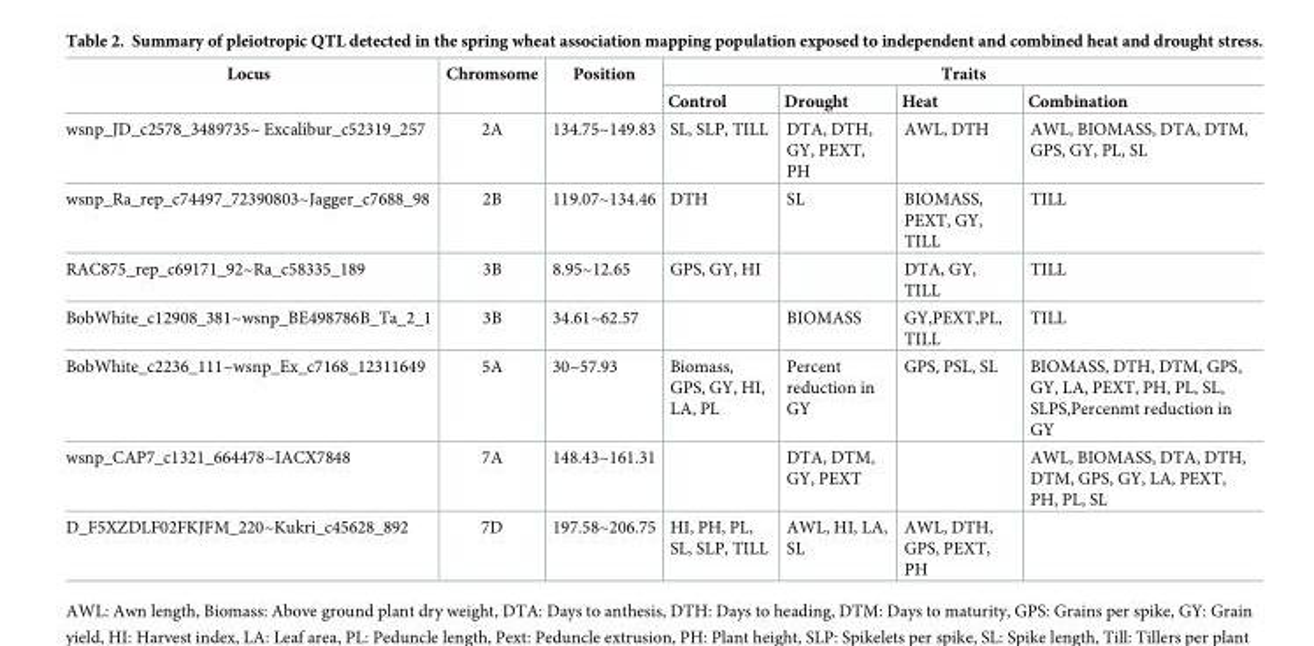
<table><thead><tr><td rowspan="2">Locus</td><td rowspan="2">Chromsome</td><td rowspan="2">Position</td><td colspan="4">Traits</td></tr><tr><td>Control</td><td>Drought</td><td>Heat</td><td>Combination</td></tr></thead><tbody><tr><td>wsnp_JD_c2578_3489735~ Excalibur_c52319_257</td><td>2A</td><td>134.75~149.83</td><td>SL, SLP, TILL</td><td>DTA, DTH, GY, PEXT, PH</td><td>AWL, DTH</td><td>AWL, BIOMASS, DTA, DTM, GPS, GY, PL, SL</td></tr><tr><td>wsnp_Ra_rep_c74497_72390803~Jagger_c7688_98</td><td>2B</td><td>119.07~134.46</td><td>DTH</td><td>SL</td><td>BIOMASS, PEXT, GY, TILL</td><td>TILL</td></tr><tr><td>RAC875_rep_c69171_92~Ra_c58335_189</td><td>3B</td><td>8.95~12.65</td><td>GPS, GY, HI</td><td></td><td>DTA, GY, TILL</td><td>TILL</td></tr><tr><td>BobWhite_c12908_381~wsnp_BE498786B_Ta_2_1</td><td>3B</td><td>34.61~62.57</td><td></td><td>BIOMASS</td><td>GY,PEXT,PL, TILL</td><td>TILL</td></tr><tr><td>BobWhite_c2236_111~wsnp_Ex_c7168_12311649</td><td>5A</td><td>30~57.93</td><td>Biomass, GPS, GY, HI, LA, PL</td><td>Percent reduction in GY</td><td>GPS, PSL, SL</td><td>BIOMASS, DTH, DTM, GPS, GY, LA, PEXT, PH, PL, SL, SLPS,Percenmt reduction in GY</td></tr><tr><td>wsnp_CAP7_c1321_664478~IACX7848</td><td>7A</td><td>148.43~161.31</td><td></td><td>DTA, DTM, GY, PEXT</td><td></td><td>AWL, BIOMASS, DTA, DTH, DTM, GPS, GY, LA, PEXT, PH, PL, SL</td></tr><tr><td>D_F5XZDLF02FKJFM_220~Kukri_c45628_892</td><td>7D</td><td>197.58~206.75</td><td>HI, PH, PL, SL, SLP, TILL</td><td>AWL, HI, LA, SL</td><td>AWL, DTH, GPS, PEXT, PH</td><td></td></tr></tbody></table>